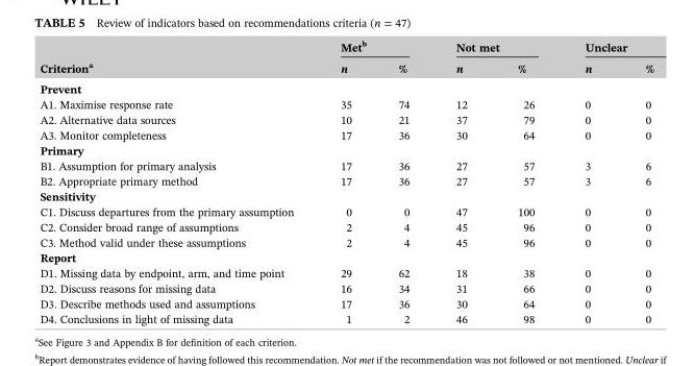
<table><thead><tr><td rowspan="2">Criterion<sup>a</sup></td><td colspan="2">Met<sup>b</sup></td><td colspan="2">Not met</td><td colspan="2">Unclear</td></tr><tr><td>n</td><td>%</td><td>n</td><td>%</td><td>n</td><td>%</td></tr></thead><tbody><tr><td colspan="7">Prevent</td></tr><tr><td>A1. Maximise response rate</td><td>35</td><td>74</td><td>12</td><td>26</td><td>0</td><td>0</td></tr><tr><td>A2. Alternative data sources</td><td>10</td><td>21</td><td>37</td><td>79</td><td>0</td><td>0</td></tr><tr><td>A3. Monitor completeness</td><td>17</td><td>36</td><td>30</td><td>64</td><td>0</td><td>0</td></tr><tr><td colspan="7">Primary</td></tr><tr><td>B1. Assumption for primary analysis</td><td>17</td><td>36</td><td>27</td><td>57</td><td>3</td><td>6</td></tr><tr><td>B2. Appropriate primary method</td><td>17</td><td>36</td><td>27</td><td>57</td><td>3</td><td>6</td></tr><tr><td colspan="7">Sensitivity</td></tr><tr><td>C1. Discuss departures from the primary assumption</td><td>0</td><td>0</td><td>47</td><td>100</td><td>0</td><td>0</td></tr><tr><td>C2. Consider broad range of assumptions</td><td>2</td><td>4</td><td>45</td><td>96</td><td>0</td><td>0</td></tr><tr><td>C3. Method valid under these assumptions</td><td>2</td><td>4</td><td>45</td><td>96</td><td>0</td><td>0</td></tr><tr><td colspan="7">Report</td></tr><tr><td>D1. Missing data by endpoint, arm, and time point</td><td>29</td><td>62</td><td>18</td><td>38</td><td>0</td><td>0</td></tr><tr><td>D2. Discuss reasons for missing data</td><td>16</td><td>34</td><td>31</td><td>66</td><td>0</td><td>0</td></tr><tr><td>D3. Describe methods used and assumptions</td><td>17</td><td>36</td><td>30</td><td>64</td><td>0</td><td>0</td></tr><tr><td>D4. Conclusions in light of missing data</td><td>1</td><td>2</td><td>46</td><td>98</td><td>0</td><td>0</td></tr></tbody></table>